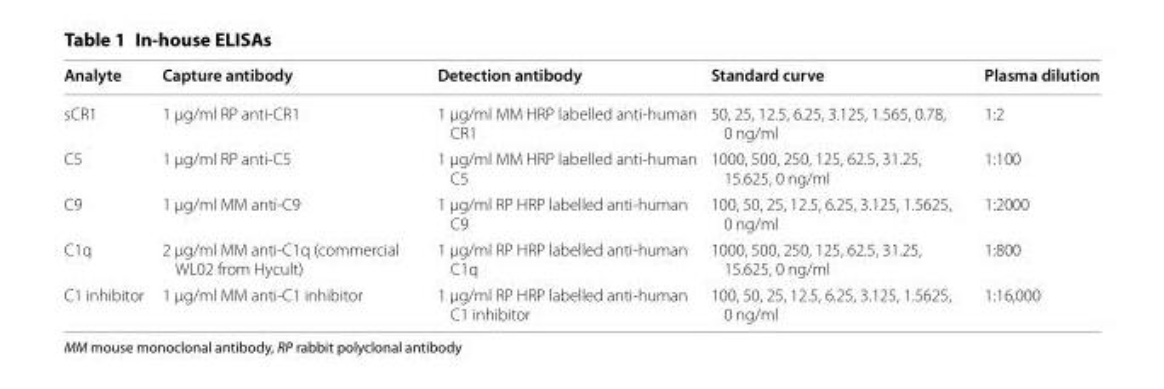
<table><thead><tr><td>Analyte</td><td>Capture antibody</td><td>Detection antibody</td><td>Standard curve</td><td>Plasma dilution</td></tr></thead><tbody><tr><td>sCR1</td><td>1 µg/ml RP anti-CR1</td><td>1 µg/ml MM HRP labelled anti-human CR1</td><td>50, 25, 12.5, 6.25, 3.125, 1.565, 0.78, 0 ng/ml</td><td>1:2</td></tr><tr><td>C5</td><td>1 µg/ml RP anti-C5</td><td>1 µg/ml MM HRP labelled anti-human C5</td><td>1000, 500, 250, 125, 62.5, 31.25, 15.625, 0 ng/ml</td><td>1:100</td></tr><tr><td>C9</td><td>1 µg/ml MM anti-C9</td><td>1 µg/ml RP HRP labelled anti-human C9</td><td>100, 50, 25, 12.5, 6.25, 3.125, 1.5625, 0 ng/ml</td><td>1:2000</td></tr><tr><td>C1q</td><td>2 µg/ml MM anti-C1q (commercial WL02 from Hycult)</td><td>1 µg/ml RP HRP labelled anti-human C1q</td><td>1000, 500, 250, 125, 62.5, 31.25, 15.625, 0 ng/ml</td><td>1:800</td></tr><tr><td>C1 inhibitor</td><td>1 µg/ml MM anti-C1 inhibitor</td><td>1 µg/ml RP HRP labelled anti-human C1 inhibitor</td><td>100, 50, 25, 12.5, 6.25, 3.125, 1.5625, 0 ng/ml</td><td>1:16,000</td></tr></tbody></table>